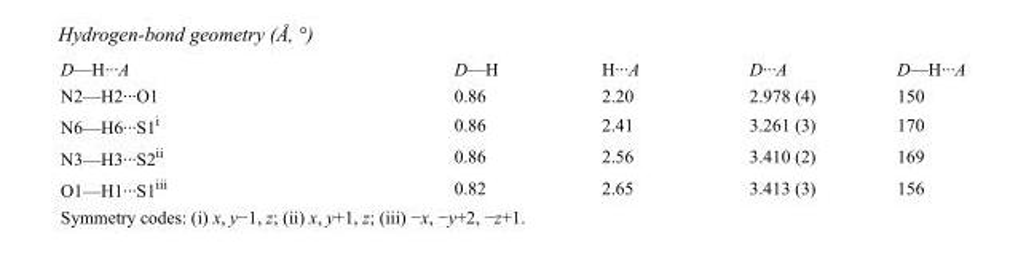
<table><tbody><tr><td>D—H···A</td><td>D—H</td><td>H···A</td><td>D···A</td><td>D—H···A</td></tr><tr><td>N2—H2···O1</td><td>0.86</td><td>2.20</td><td>2.978 (4)</td><td>150</td></tr><tr><td>N6—H6···S1<sup>i</sup></td><td>0.86</td><td>2.41</td><td>3.261 (3)</td><td>170</td></tr><tr><td>N3—H3···S2<sup>ii</sup></td><td>0.86</td><td>2.56</td><td>3.410 (2)</td><td>169</td></tr><tr><td>O1—H1···S1<sup>iii</sup></td><td>0.82</td><td>2.65</td><td>3.413 (3)</td><td>156</td></tr></tbody></table>